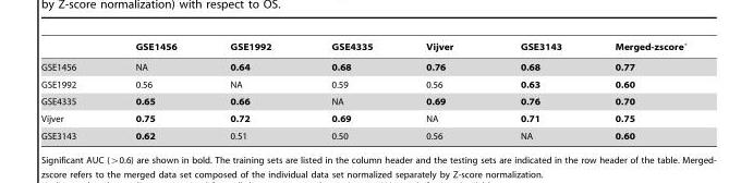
<table><thead><tr><td></td><td>GSE1456</td><td>GSE1992</td><td>GSE4335</td><td>Vijver</td><td>GSE3143</td><td>Merged-zscore�</td></tr></thead><tbody><tr><td>GSE1456</td><td>NA</td><td>0.64</td><td>0.68</td><td>0.76</td><td>0.68</td><td>0.77</td></tr><tr><td>GSE1992</td><td>0.56</td><td>NA</td><td>0.59</td><td>0.56</td><td>0.63</td><td>0.60</td></tr><tr><td>GSE4335</td><td>0.65</td><td>0.66</td><td>NA</td><td>0.69</td><td>0.76</td><td>0.70</td></tr><tr><td>Vijver</td><td>0.75</td><td>0.72</td><td>0.69</td><td>NA</td><td>0.71</td><td>0.75</td></tr><tr><td>GSE3143</td><td>0.62</td><td>0.51</td><td>0.50</td><td>0.56</td><td>NA</td><td>0.60</td></tr></tbody></table>